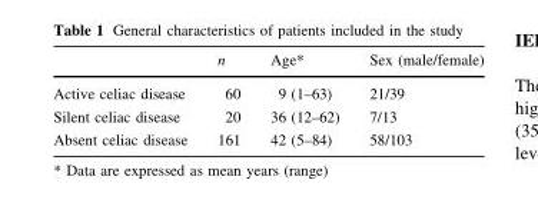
<table><thead><tr><td></td><td>n</td><td>Age*</td><td>Sex (male/female)</td></tr></thead><tbody><tr><td>Active celiac disease</td><td>60</td><td>9 (1–63)</td><td>21/39</td></tr><tr><td>Silent celiac disease</td><td>20</td><td>36 (12–62)</td><td>7/13</td></tr><tr><td>Absent celiac disease</td><td>161</td><td>42 (5–84)</td><td>58/103</td></tr></tbody></table>